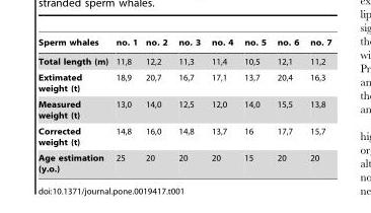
<table><thead><tr><td>Sperm whales</td><td>no. 1</td><td>no. 2</td><td>no. 3</td><td>no. 4</td><td>no. 5</td><td>no. 6</td><td>no. 7</td></tr></thead><tbody><tr><td>Total length (m)</td><td>11,8</td><td>12,2</td><td>11,3</td><td>11,4</td><td>10,5</td><td>12,1</td><td>11,2</td></tr><tr><td>Extimated weight (t)</td><td>18,9</td><td>20,7</td><td>16,7</td><td>17,1</td><td>13,7</td><td>20,4</td><td>16,3</td></tr><tr><td>Measured weight (t)</td><td>13,0</td><td>14,0</td><td>12,5</td><td>12,0</td><td>14,0</td><td>15,5</td><td>13,8</td></tr><tr><td>Corrected weight (t)</td><td>14,8</td><td>16,0</td><td>14,8</td><td>13,7</td><td>16</td><td>17,7</td><td>15,7</td></tr><tr><td>Age estimation (y.o.)</td><td>25</td><td>20</td><td>20</td><td>20</td><td>15</td><td>20</td><td>20</td></tr></tbody></table>